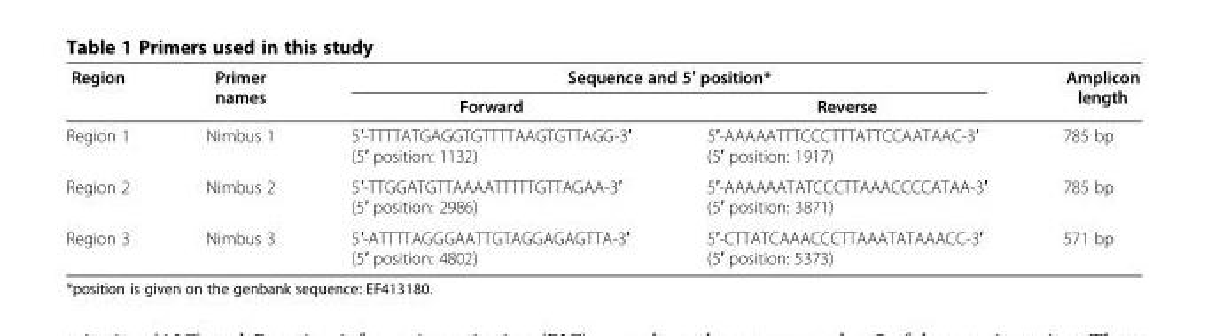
<table><thead><tr><td rowspan="2">Region</td><td rowspan="2">Primer names</td><td colspan="2">Sequence and 5′ position*</td><td rowspan="2">Amplicon length</td></tr><tr><td>Forward</td><td>Reverse</td></tr></thead><tbody><tr><td>Region 1</td><td>Nimbus 1</td><td>5′-TTTTATGAGGTGTTTTAAGTGTTAGG-3′ (5′ position: 1132)</td><td>5′-AAAAATTTCCCTTTATTCCAATAAC-3′ (5′ position: 1917)</td><td>785 bp</td></tr><tr><td>Region 2</td><td>Nimbus 2</td><td>5′-TTGGATGTTAAAATTTTTGTTAGAA-3′ (5′ position: 2986)</td><td>5′-AAAAAATATCCCTTAAACCCCATAA-3′ (5′ position: 3871)</td><td>785 bp</td></tr><tr><td>Region 3</td><td>Nimbus 3</td><td>5′-ATTTTAGGGAATTGTAGGAGAGTTA-3′ (5′ position: 4802)</td><td>5′-CTTATCAAACCCTTAAATATAAACC-3′ (5′ position: 5373)</td><td>571 bp</td></tr></tbody></table>